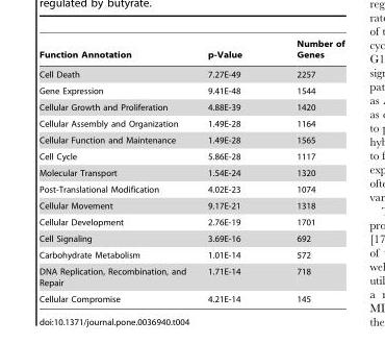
<table><thead><tr><td>Function Annotation</td><td>p-Value</td><td>Number of Genes</td></tr></thead><tbody><tr><td>Cell Death</td><td>7.27E-49</td><td>2257</td></tr><tr><td>Gene Expression</td><td>9.41E-48</td><td>1544</td></tr><tr><td>Cellular Growth and Proliferation</td><td>4.88E-39</td><td>1420</td></tr><tr><td>Cellular Assembly and Organization</td><td>1.49E-28</td><td>1164</td></tr><tr><td>Cellular Function and Maintenance</td><td>1.49E-28</td><td>1565</td></tr><tr><td>Cell Cycle</td><td>5.86E-28</td><td>1117</td></tr><tr><td>Molecular Transport</td><td>1.54E-24</td><td>1320</td></tr><tr><td>Post-Translational Modification</td><td>4.02E-23</td><td>1074</td></tr><tr><td>Cellular Movement</td><td>9.17E-21</td><td>1318</td></tr><tr><td>Cellular Development</td><td>2.76E-19</td><td>1701</td></tr><tr><td>Cell Signaling</td><td>3.69E-16</td><td>692</td></tr><tr><td>Carbohydrate Metabolism</td><td>1.01E-14</td><td>572</td></tr><tr><td>DNA Replication, Recombination, and Repair</td><td>1.71E-14</td><td>718</td></tr><tr><td>Cellular Compromise</td><td>4.21E-14</td><td>145</td></tr></tbody></table>